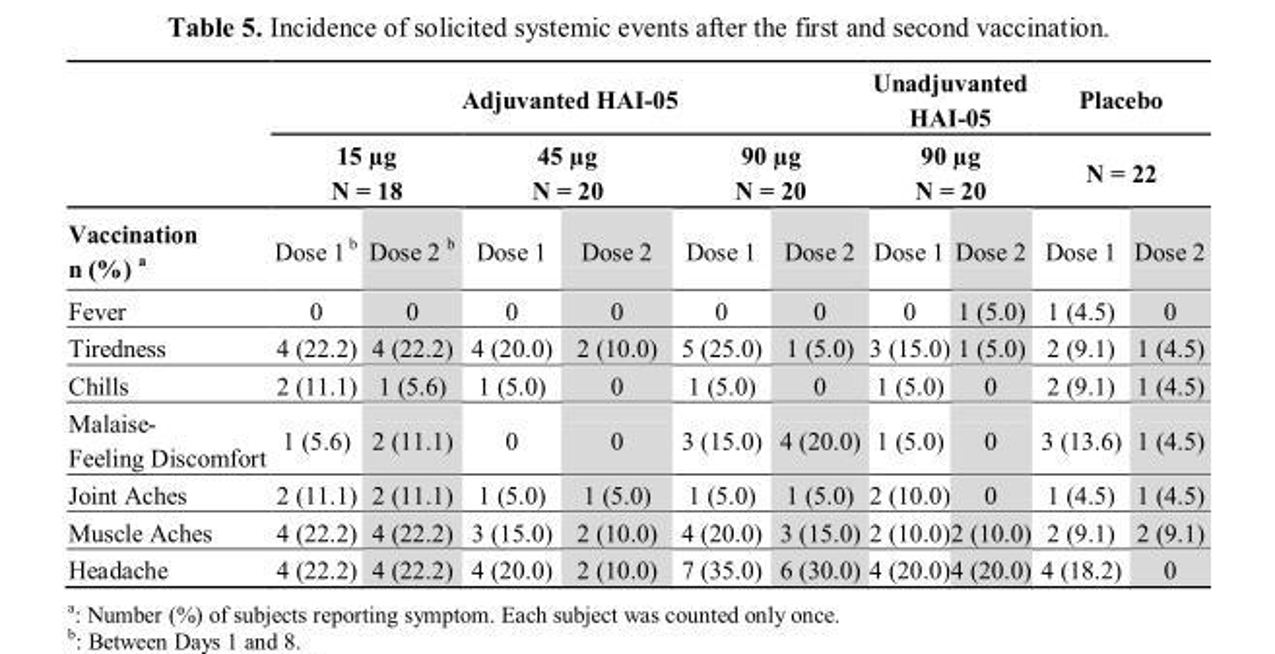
<table><thead><tr><td rowspan="3">Vaccination n (%) <sup>a</sup></td><td colspan="6">Adjuvanted HAI-05</td><td rowspan="2" colspan="2">Unadjuvanted HAI-05 90 µg N = 20</td><td rowspan="2" colspan="2">Placebo N = 22</td></tr><tr><td colspan="2">15 µg N = 18</td><td colspan="2">45 µg N = 20</td><td colspan="2">90 µg N = 20</td></tr><tr><td>Dose 1 <sup>b</sup></td><td>Dose 2 <sup>b</sup></td><td>Dose 1</td><td>Dose 2</td><td>Dose 1</td><td>Dose 2</td><td>Dose 1</td><td>Dose 2</td><td>Dose 1</td><td>Dose 2</td></tr></thead><tbody><tr><td>Fever</td><td>0</td><td>0</td><td>0</td><td>0</td><td>0</td><td>0</td><td>0</td><td>1 (5.0)</td><td>1 (4.5)</td><td>0</td></tr><tr><td>Tiredness</td><td>4 (22.2)</td><td>4 (22.2)</td><td>4 (20.0)</td><td>2 (10.0)</td><td>5 (25.0)</td><td>1 (5.0)</td><td>3 (15.0)</td><td>1 (5.0)</td><td>2 (9.1)</td><td>1 (4.5)</td></tr><tr><td>Chills</td><td>2 (11.1)</td><td>1 (5.6)</td><td>1 (5.0)</td><td>0</td><td>1 (5.0)</td><td>0</td><td>1 (5.0)</td><td>0</td><td>2 (9.1)</td><td>1 (4.5)</td></tr><tr><td>Malaise- Feeling Discomfort</td><td>1 (5.6)</td><td>2 (11.1)</td><td>0</td><td>0</td><td>3 (15.0)</td><td>4 (20.0)</td><td>1 (5.0)</td><td>0</td><td>3 (13.6)</td><td>1 (4.5)</td></tr><tr><td>Joint Aches</td><td>2 (11.1)</td><td>2 (11.1)</td><td>1 (5.0)</td><td>1 (5.0)</td><td>1 (5.0)</td><td>1 (5.0)</td><td>2 (10.0)</td><td>0</td><td>1 (4.5)</td><td>1 (4.5)</td></tr><tr><td>Muscle Aches</td><td>4 (22.2)</td><td>4 (22.2)</td><td>3 (15.0)</td><td>2 (10.0)</td><td>4 (20.0)</td><td>3 (15.0)</td><td>2 (10.0)</td><td>2 (10.0)</td><td>2 (9.1)</td><td>2 (9.1)</td></tr><tr><td>Headache</td><td>4 (22.2)</td><td>4 (22.2)</td><td>4 (20.0)</td><td>2 (10.0)</td><td>7 (35.0)</td><td>6 (30.0)</td><td>4 (20.0)</td><td>4 (20.0)</td><td>4 (18.2)</td><td>0</td></tr></tbody></table>